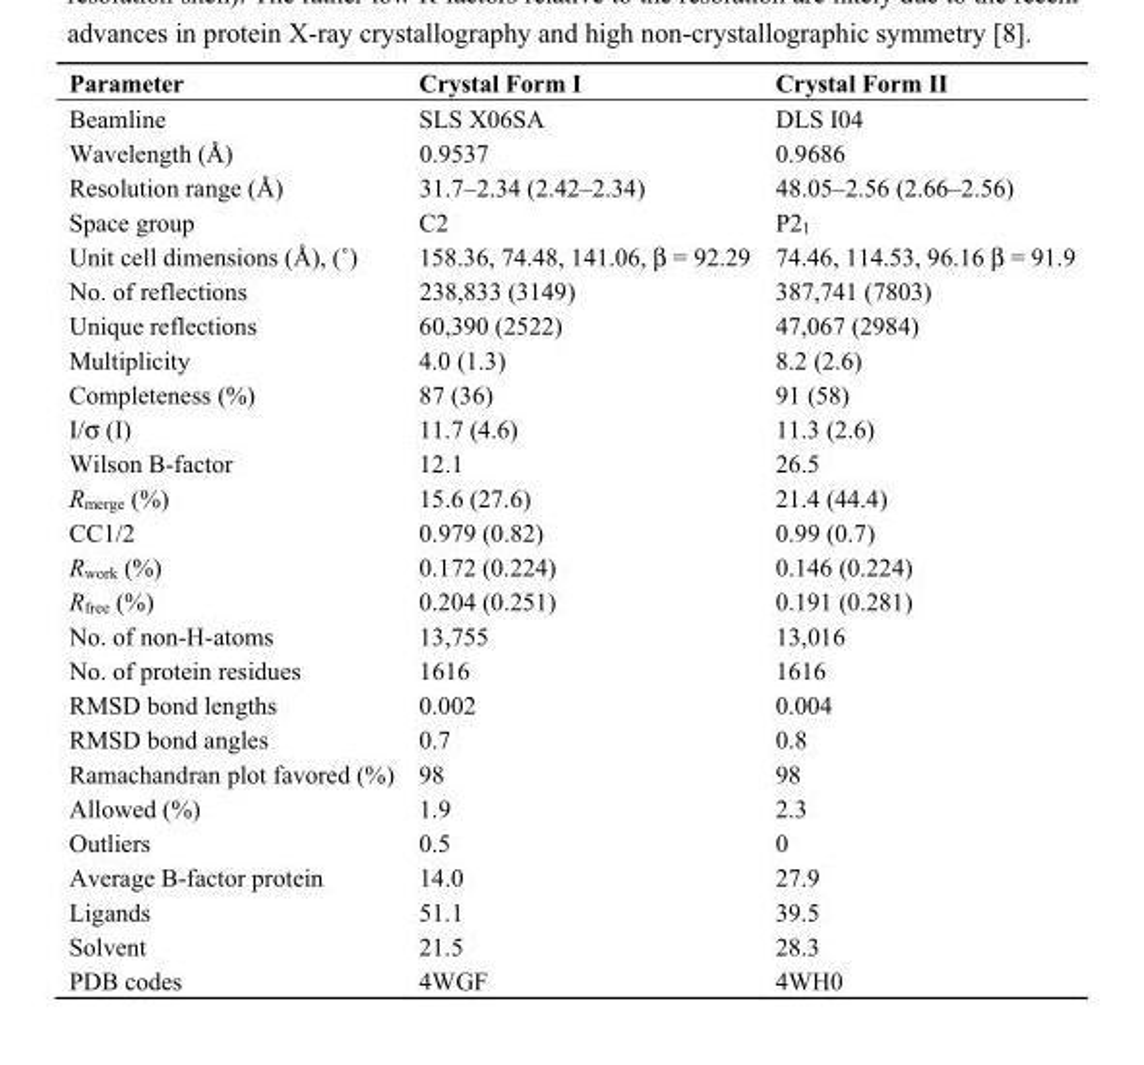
<table><thead><tr><td>Parameter</td><td>Crystal Form I</td><td>Crystal Form II</td></tr></thead><tbody><tr><td>Beamline</td><td>SLS X06SA</td><td>DLS I04</td></tr><tr><td>Wavelength (Å)</td><td>0.9537</td><td>0.9686</td></tr><tr><td>Resolution range (Å)</td><td>31.7–2.34 (2.42–2.34)</td><td>48.05–2.56 (2.66–2.56)</td></tr><tr><td>Space group</td><td>C2</td><td>P2<sub>1</sub></td></tr><tr><td>Unit cell dimensions (Å), (˚)</td><td>158.36, 74.48, 141.06, β = 92.29</td><td>74.46, 114.53, 96.16 β = 91.9</td></tr><tr><td>No. of reflections</td><td>238,833 (3149)</td><td>387,741 (7803)</td></tr><tr><td>Unique reflections</td><td>60,390 (2522)</td><td>47,067 (2984)</td></tr><tr><td>Multiplicity</td><td>4.0 (1.3)</td><td>8.2 (2.6)</td></tr><tr><td>Completeness (%)</td><td>87 (36)</td><td>91 (58)</td></tr><tr><td>I/σ (I)</td><td>11.7 (4.6)</td><td>11.3 (2.6)</td></tr><tr><td>Wilson B-factor</td><td>12.1</td><td>26.5</td></tr><tr><td>R<sub>merge</sub> (%)</td><td>15.6 (27.6)</td><td>21.4 (44.4)</td></tr><tr><td>CC1/2</td><td>0.979 (0.82)</td><td>0.99 (0.7)</td></tr><tr><td>R<sub>work</sub> (%)</td><td>0.172 (0.224)</td><td>0.146 (0.224)</td></tr><tr><td>R<sub>free</sub> (%)</td><td>0.204 (0.251)</td><td>0.191 (0.281)</td></tr><tr><td>No. of non-H-atoms</td><td>13,755</td><td>13,016</td></tr><tr><td>No. of protein residues</td><td>1616</td><td>1616</td></tr><tr><td>RMSD bond lengths</td><td>0.002</td><td>0.004</td></tr><tr><td>RMSD bond angles</td><td>0.7</td><td>0.8</td></tr><tr><td>Ramachandran plot favored (%)</td><td>98</td><td>98</td></tr><tr><td>Allowed (%)</td><td>1.9</td><td>2.3</td></tr><tr><td>Outliers</td><td>0.5</td><td>0</td></tr><tr><td>Average B-factor protein</td><td>14.0</td><td>27.9</td></tr><tr><td>Ligands</td><td>51.1</td><td>39.5</td></tr><tr><td>Solvent</td><td>21.5</td><td>28.3</td></tr><tr><td>PDB codes</td><td>4WGF</td><td>4WH0</td></tr></tbody></table>